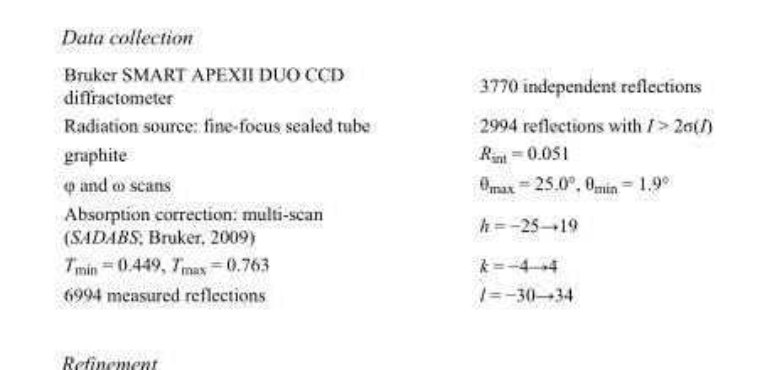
<table><tbody><tr><td>Bruker SMART APEXII DUO CCD diffractometer</td><td>3770 independent reflections</td></tr><tr><td>Radiation source: fine-focus sealed tube</td><td>2994 reflections with I &gt; 2σ(I)</td></tr><tr><td>graphite</td><td>R<sub>int</sub> = 0.051</td></tr><tr><td>φ and ω scans</td><td>θ<sub>max</sub> = 25.0°, θ<sub>min</sub> = 1.9°</td></tr><tr><td>Absorption correction: multi-scan (SADABS; Bruker, 2009)</td><td>h = −25→19</td></tr><tr><td>T<sub>min</sub> = 0.449, T<sub>max</sub> = 0.763</td><td>k = −4→4</td></tr><tr><td>6994 measured reflections</td><td>l = −30→34</td></tr></tbody></table>